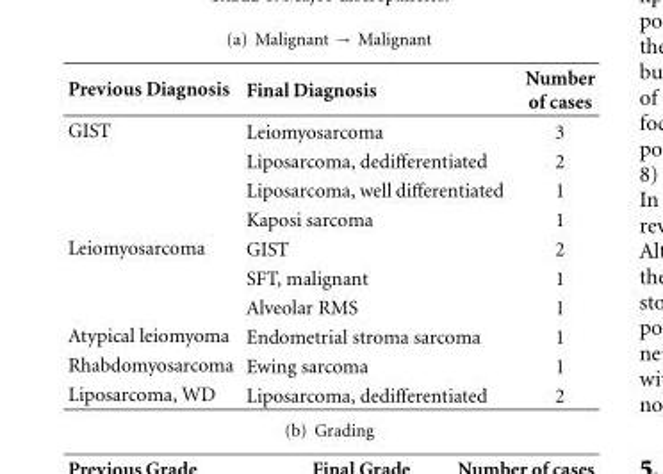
<table><thead><tr><td>Previous Diagnosis</td><td>Final Diagnosis</td><td>Number of cases</td></tr></thead><tbody><tr><td rowspan="4">GIST</td><td>Leiomyosarcoma</td><td>3</td></tr><tr><td>Liposarcoma, dedifferentiated</td><td>2</td></tr><tr><td>Liposarcoma, well differentiated</td><td>1</td></tr><tr><td>Kaposi sarcoma</td><td>1</td></tr><tr><td rowspan="3">Leiomyosarcoma</td><td>GIST</td><td>2</td></tr><tr><td>SFT, malignant</td><td>1</td></tr><tr><td>Alveolar RMS</td><td>1</td></tr><tr><td>Atypical leiomyoma</td><td>Endometrial stroma sarcoma</td><td>1</td></tr><tr><td>Rhabdomyosarcoma</td><td>Ewing sarcoma</td><td>1</td></tr><tr><td>Liposarcoma, WD</td><td>Liposarcoma, dedifferentiated</td><td>2</td></tr></tbody></table>